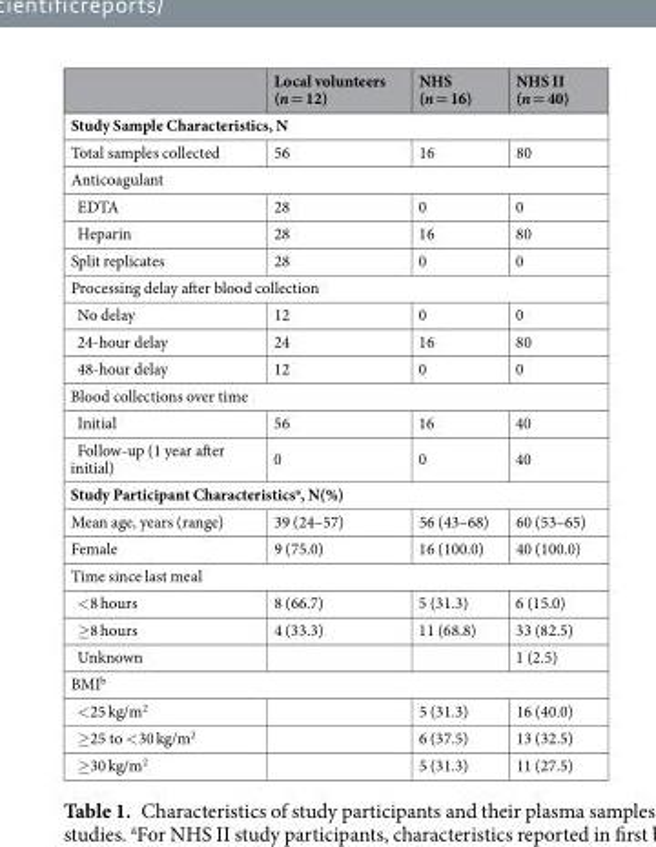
<table><thead><tr><td></td><td>Local volunteers (n = 12)</td><td>NHS (n = 16)</td><td>NHS II (n = 40)</td></tr></thead><tbody><tr><td colspan="4">Study Sample Characteristics, N</td></tr><tr><td>Total samples collected</td><td>56</td><td>16</td><td>80</td></tr><tr><td colspan="4">Anticoagulant</td></tr><tr><td>EDTA</td><td>28</td><td>0</td><td>0</td></tr><tr><td>Heparin</td><td>28</td><td>16</td><td>80</td></tr><tr><td>Split replicates</td><td>28</td><td>0</td><td>0</td></tr><tr><td colspan="4">Processing delay after blood collection</td></tr><tr><td>No delay</td><td>12</td><td>0</td><td>0</td></tr><tr><td>24-hour delay</td><td>24</td><td>16</td><td>80</td></tr><tr><td>48-hour delay</td><td>12</td><td>0</td><td>0</td></tr><tr><td colspan="4">Blood collections over time</td></tr><tr><td>Initial</td><td>56</td><td>16</td><td>40</td></tr><tr><td>Follow-up (1 year after initial)</td><td>0</td><td>0</td><td>40</td></tr><tr><td colspan="4">Study Participant Characteristics<sup>a</sup>, N(%)</td></tr><tr><td>Mean age, years (range)</td><td>39 (24–57)</td><td>56 (43–68)</td><td>60 (53–65)</td></tr><tr><td>Female</td><td>9 (75.0)</td><td>16 (100.0)</td><td>40 (100.0)</td></tr><tr><td colspan="4">Time since last meal</td></tr><tr><td>&lt;8 hours</td><td>8 (66.7)</td><td>5 (31.3)</td><td>6 (15.0)</td></tr><tr><td>≥8 hours</td><td>4 (33.3)</td><td>11 (68.8)</td><td>33 (82.5)</td></tr><tr><td>Unknown</td><td></td><td></td><td>1 (2.5)</td></tr><tr><td colspan="4">BMI<sup>b</sup></td></tr><tr><td>&lt;25 kg/m<sup>2</sup></td><td></td><td>5 (31.3)</td><td>16 (40.0)</td></tr><tr><td>≥25 to &lt;30 kg/m<sup>2</sup></td><td></td><td>6 (37.5)</td><td>13 (32.5)</td></tr><tr><td>≥30 kg/m<sup>2</sup></td><td></td><td>5 (31.3)</td><td>11 (27.5)</td></tr></tbody></table>